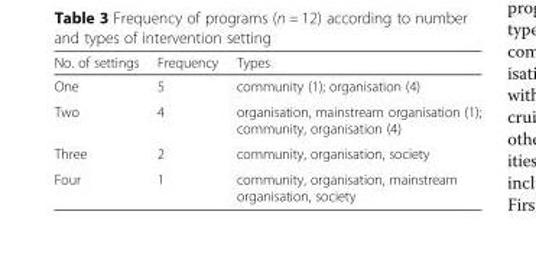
<table><thead><tr><td>No. of settings</td><td>Frequency</td><td>Types</td></tr></thead><tbody><tr><td>One</td><td>5</td><td>community (1); organisation (4)</td></tr><tr><td>Two</td><td>4</td><td>organisation, mainstream organisation (1); community, organisation (4)</td></tr><tr><td>Three</td><td>2</td><td>community, organisation, society</td></tr><tr><td>Four</td><td>1</td><td>community, organisation, mainstream organisation, society</td></tr></tbody></table>